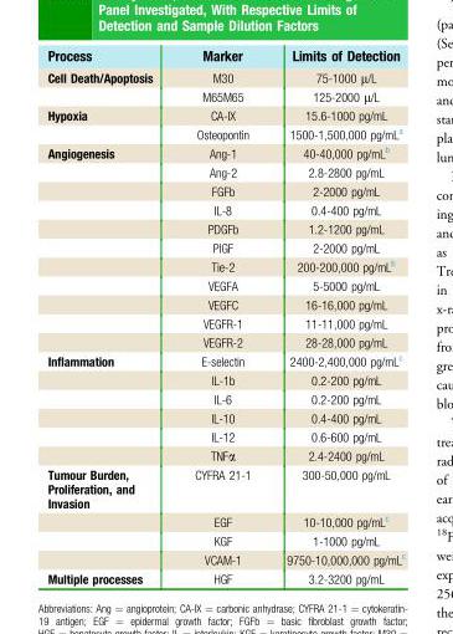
<table><thead><tr><td>Process</td><td>Marker</td><td>Limits of Detection</td></tr></thead><tbody><tr><td rowspan="2">Cell Death/Apoptosis</td><td>M30</td><td>75-1000 μ/L</td></tr><tr><td>M65M65</td><td>125-2000 μ/L</td></tr><tr><td rowspan="2">Hypoxia</td><td>CA-IX</td><td>15.6-1000 pg/mL</td></tr><tr><td>Osteopontin</td><td>1500-1,500,000 pg/mL<sup>a</sup></td></tr><tr><td rowspan="11">Angiogenesis</td><td>Ang-1</td><td>40-40,000 pg/mL<sup>b</sup></td></tr><tr><td>Ang-2</td><td>2.8-2800 pg/mL</td></tr><tr><td>FGFb</td><td>2-2000 pg/mL</td></tr><tr><td>IL-8</td><td>0.4-400 pg/mL</td></tr><tr><td>PDGFb</td><td>1.2-1200 pg/mL</td></tr><tr><td>PIGF</td><td>2-2000 pg/mL</td></tr><tr><td>Tie-2</td><td>200-200,000 pg/mL<sup>b</sup></td></tr><tr><td>VEGFA</td><td>5-5000 pg/mL</td></tr><tr><td>VEGFC</td><td>16-16,000 pg/mL</td></tr><tr><td>VEGFR-1</td><td>11-11,000 pg/mL</td></tr><tr><td>VEGFR-2</td><td>28-28,000 pg/mL</td></tr><tr><td rowspan="6">Inflammation</td><td>E-selectin</td><td>2400-2,400,000 pg/mL<sup>c</sup></td></tr><tr><td>IL-1b</td><td>0.2-200 pg/mL</td></tr><tr><td>IL-6</td><td>0.2-200 pg/mL</td></tr><tr><td>IL-10</td><td>0.4-400 pg/mL</td></tr><tr><td>IL-12</td><td>0.6-600 pg/mL</td></tr><tr><td>TNFα</td><td>2.4-2400 pg/mL</td></tr><tr><td rowspan="4">Tumour Burden, Proliferation, and Invasion</td><td>CYFRA 21-1</td><td>300-50,000 pg/mL</td></tr><tr><td>EGF</td><td>10-10,000 pg/mL<sup>c</sup></td></tr><tr><td>KGF</td><td>1-1000 pg/mL</td></tr><tr><td>VCAM-1</td><td>9750-10,000,000 pg/mL<sup>c</sup></td></tr><tr><td>Multiple processes</td><td>HGF</td><td>3.2-3200 pg/mL</td></tr></tbody></table>